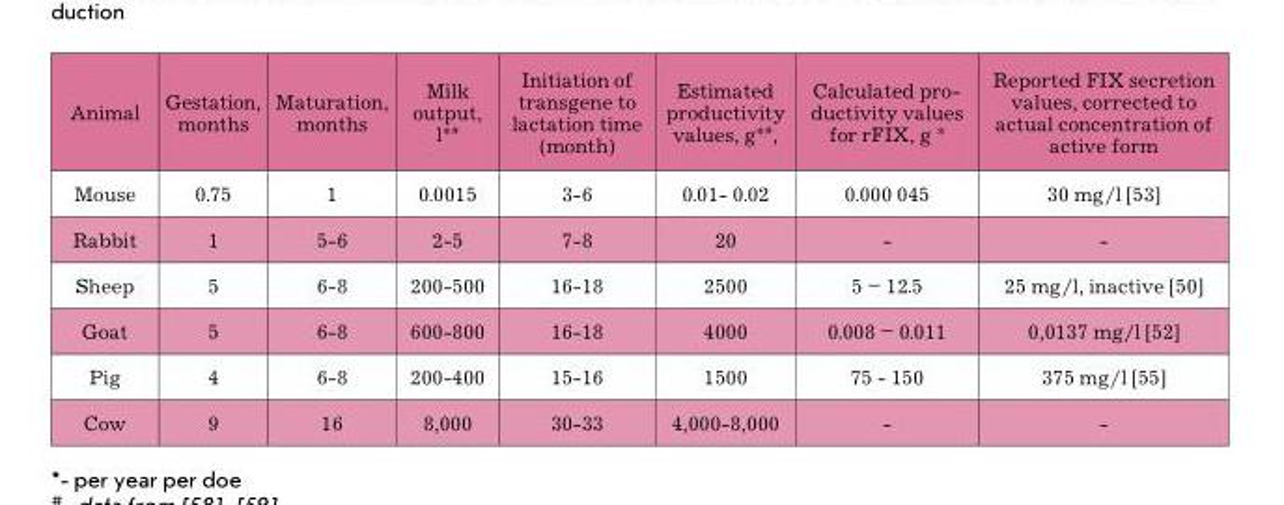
<table><thead><tr><td>Animal</td><td>Gestation, months</td><td>Maturation, months</td><td>Milk output, l*<sup>#</sup></td><td>Initiation of transgene to lactation time (month)</td><td>estimated productivity values, g*<sup>#</sup>,</td><td>calculated pro- ductivity values for rFIX, g *</td><td>reported FIX secretion values, corrected to actual concentration of active form</td></tr></thead><tbody><tr><td>Mouse</td><td>0.75</td><td>1</td><td>0.0015</td><td>3-6</td><td>0.01- 0.02</td><td>0.000 045</td><td>30 mg/l [53]</td></tr><tr><td>rabbit</td><td>1</td><td>5-6</td><td>2-5</td><td>7-8</td><td>20</td><td>-</td><td>-</td></tr><tr><td>Sheep</td><td>5</td><td>6-8</td><td>200-500</td><td>16-18</td><td>2500</td><td>5 – 12.5</td><td>25 mg/l, inactive [50]</td></tr><tr><td>Goat</td><td>5</td><td>6-8</td><td>600-800</td><td>16-18</td><td>4000</td><td>0.008 – 0.011</td><td>0,0137 mg/l [52]</td></tr><tr><td>Pig</td><td>4</td><td>6-8</td><td>200-400</td><td>15-16</td><td>1500</td><td>75 - 150</td><td>375 mg/l [55]</td></tr><tr><td>cow</td><td>9</td><td>16</td><td>8,000</td><td>30-33</td><td>4,000-8,000</td><td>-</td><td>-</td></tr></tbody></table>